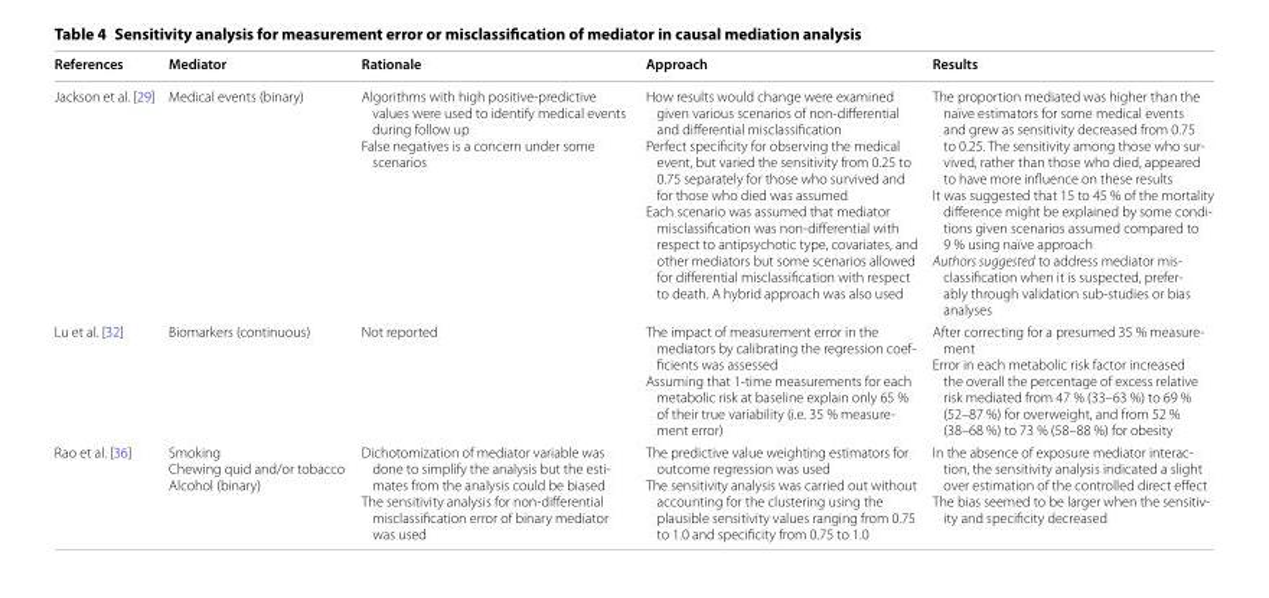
<table><thead><tr><td>References</td><td>Mediator</td><td>Rationale</td><td>Approach</td><td>Results</td></tr></thead><tbody><tr><td>Jackson et al. [29]</td><td>Medical events (binary)</td><td>Algorithms with high positive‑predictive values were used to identify medical events during follow up False negatives is a concern under some scenarios</td><td>How results would change were examined given various scenarios of non‑differential and differential misclassification Perfect specificity for observing the medical event, but varied the sensitivity from 0.25 to 0.75 separately for those who survived and for those who died was assumed Each scenario was assumed that mediator misclassification was non‑differential with respect to antipsychotic type, covariates, and other mediators but some scenarios allowed for differential misclassification with respect to death. A hybrid approach was also used</td><td>The proportion mediated was higher than the naïve estimators for some medical events and grew as sensitivity decreased from 0.75 to 0.25. The sensitivity among those who sur‑ vived, rather than those who died, appeared to have more influence on these results It was suggested that 15 to 45 % of the mortality difference might be explained by some condi‑ tions given scenarios assumed compared to 9 % using naïve approach Authors suggested to address mediator mis‑ classification when it is suspected, prefer‑ ably through validation sub‑studies or bias analyses</td></tr><tr><td>Lu et al. [32]</td><td>Biomarkers (continuous)</td><td>Not reported</td><td>The impact of measurement error in the mediators by calibrating the regression coef‑ ficients was assessed Assuming that 1‑time measurements for each metabolic risk at baseline explain only 65 % of their true variability (i.e. 35 % measure‑ ment error)</td><td>After correcting for a presumed 35 % measure‑ ment Error in each metabolic risk factor increased the overall the percentage of excess relative risk mediated from 47 % (33–63 %) to 69 % (52–87 %) for overweight, and from 52 % (38–68 %) to 73 % (58–88 %) for obesity</td></tr><tr><td>Rao et al. [36]</td><td>Smoking Chewing quid and/or tobacco Alcohol (binary)</td><td>Dichotomization of mediator variable was done to simplify the analysis but the esti‑ mates from the analysis could be biased The sensitivity analysis for non‑differential misclassification error of binary mediator was used</td><td>The predictive value weighting estimators for outcome regression was used The sensitivity analysis was carried out without accounting for the clustering using the plausible sensitivity values ranging from 0.75 to 1.0 and specificity from 0.75 to 1.0</td><td>In the absence of exposure mediator interac‑ tion, the sensitivity analysis indicated a slight over estimation of the controlled direct effect The bias seemed to be larger when the sensitiv‑ ity and specificity decreased</td></tr></tbody></table>